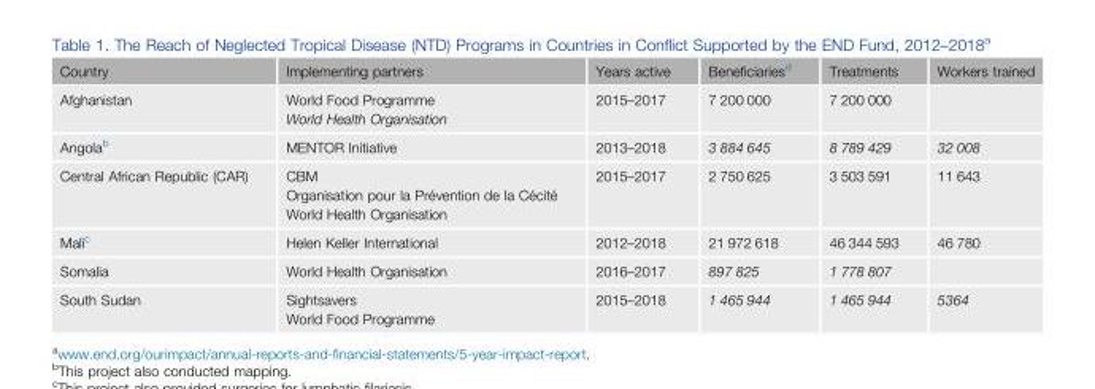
<table><thead><tr><td>Country</td><td>Implementing partners</td><td>Years active</td><td>Beneficiaries<sup>d</sup></td><td>Treatments</td><td>Workers trained</td></tr></thead><tbody><tr><td>Afghanistan</td><td>World Food Programme World Health Organisation</td><td>2015–2017</td><td>7 200 000</td><td>7 200 000</td><td></td></tr><tr><td>Angola<sup>b</sup></td><td>MENTOR Initiative</td><td>2013–2018</td><td>3 884 645</td><td>8 789 429</td><td>32 008</td></tr><tr><td>Central African Republic (CAR)</td><td>CBM Organisation pour la Prévention de la Cécité World Health Organisation</td><td>2015–2017</td><td>2 750 625</td><td>3 503 591</td><td>11 643</td></tr><tr><td>Mali<sup>c</sup></td><td>Helen Keller International</td><td>2012–2018</td><td>21 972 618</td><td>46 344 593</td><td>46 780</td></tr><tr><td>Somalia</td><td>World Health Organisation</td><td>2016–2017</td><td>897 825</td><td>1 778 807</td><td></td></tr><tr><td>South Sudan</td><td>Sightsavers World Food Programme</td><td>2015–2018</td><td>1 465 944</td><td>1 465 944</td><td>5364</td></tr></tbody></table>